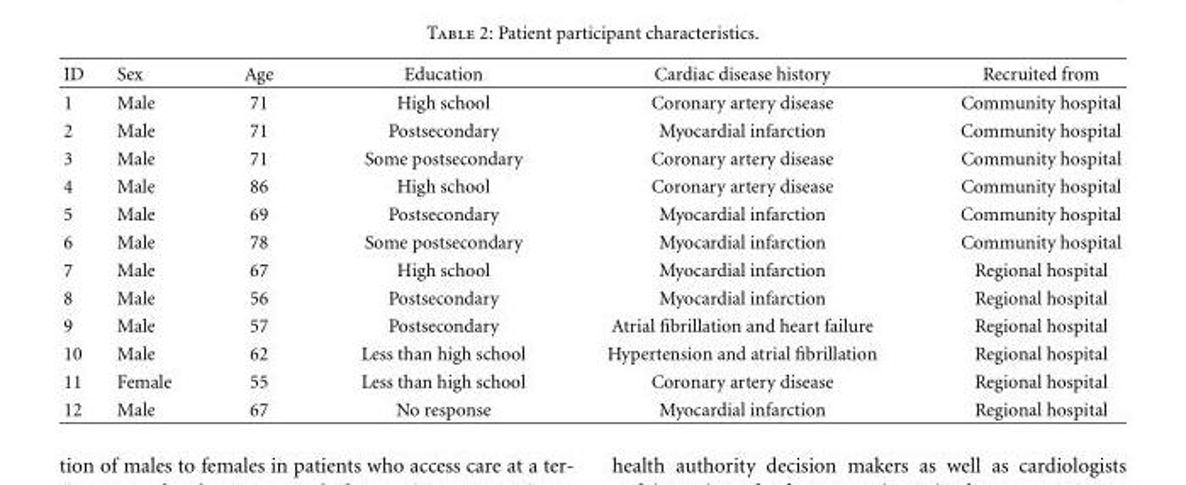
<table><thead><tr><td>ID</td><td>Sex</td><td>Age</td><td>Education</td><td>Cardiac disease history</td><td>Recruited from</td></tr></thead><tbody><tr><td>1</td><td>Male</td><td>71</td><td>High school</td><td>Coronary artery disease</td><td>Community hospital</td></tr><tr><td>2</td><td>Male</td><td>71</td><td>Postsecondary</td><td>Myocardial infarction</td><td>Community hospital</td></tr><tr><td>3</td><td>Male</td><td>71</td><td>Some postsecondary</td><td>Coronary artery disease</td><td>Community hospital</td></tr><tr><td>4</td><td>Male</td><td>86</td><td>High school</td><td>Coronary artery disease</td><td>Community hospital</td></tr><tr><td>5</td><td>Male</td><td>69</td><td>Postsecondary</td><td>Myocardial infarction</td><td>Community hospital</td></tr><tr><td>6</td><td>Male</td><td>78</td><td>Some postsecondary</td><td>Myocardial infarction</td><td>Community hospital</td></tr><tr><td>7</td><td>Male</td><td>67</td><td>High school</td><td>Myocardial infarction</td><td>Regional hospital</td></tr><tr><td>8</td><td>Male</td><td>56</td><td>Postsecondary</td><td>Myocardial infarction</td><td>Regional hospital</td></tr><tr><td>9</td><td>Male</td><td>57</td><td>Postsecondary</td><td>Atrial fibrillation and heart failure</td><td>Regional hospital</td></tr><tr><td>10</td><td>Male</td><td>62</td><td>Less than high school</td><td>Hypertension and atrial fibrillation</td><td>Regional hospital</td></tr><tr><td>11</td><td>Female</td><td>55</td><td>Less than high school</td><td>Coronary artery disease</td><td>Regional hospital</td></tr><tr><td>12</td><td>Male</td><td>67</td><td>No response</td><td>Myocardial infarction</td><td>Regional hospital</td></tr></tbody></table>